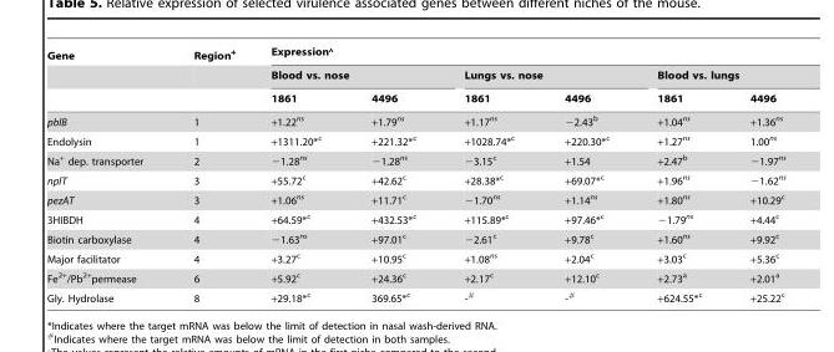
<table><thead><tr><td rowspan="3">Gene</td><td rowspan="3">Region+</td><td colspan="6">Expression‘</td></tr><tr><td colspan="2">Blood vs. nose</td><td colspan="2">Lungs vs. nose</td><td colspan="2">Blood vs. lungs</td></tr><tr><td>1861</td><td>4496</td><td>1861</td><td>4496</td><td>1861</td><td>4496</td></tr></thead><tbody><tr><td>pblB</td><td>1</td><td>+1.22<sup>ns</sup></td><td>+1.79<sup>ns</sup></td><td>+1.17<sup>ns</sup></td><td>−2.43<sup>b</sup></td><td>+1.04<sup>ns</sup></td><td>+1.36<sup>ns</sup></td></tr><tr><td>Endolysin</td><td>1</td><td>+1311.20*c</td><td>+221.32*c</td><td>+1028.74*c</td><td>+220.30*c</td><td>+1.27<sup>ns</sup></td><td>1.00<sup>ns</sup></td></tr><tr><td>Na+ dep. transporter</td><td>2</td><td>−1.28<sup>ns</sup></td><td>−1.28<sup>ns</sup></td><td>−3.15<sup>c</sup></td><td>+1.54</td><td>+2.47<sup>b</sup></td><td>−1.97<sup>ns</sup></td></tr><tr><td>nplT</td><td>3</td><td>+55.72<sup>c</sup></td><td>+42.62<sup>c</sup></td><td>+28.38*c</td><td>+69.07*c</td><td>+1.96<sup>ns</sup></td><td>−1.62<sup>ns</sup></td></tr><tr><td>pezAT</td><td>3</td><td>+1.06<sup>ns</sup></td><td>+11.71<sup>c</sup></td><td>−1.70<sup>ns</sup></td><td>+1.14<sup>ns</sup></td><td>+1.80<sup>ns</sup></td><td>+10.29<sup>c</sup></td></tr><tr><td>3HIBDH</td><td>4</td><td>+64.59*c</td><td>+432.53*c</td><td>+115.89*c</td><td>+97.46*c</td><td>−1.79<sup>ns</sup></td><td>+4.44<sup>c</sup></td></tr><tr><td>Biotin carboxylase</td><td>4</td><td>−1.63<sup>ns</sup></td><td>+97.01<sup>c</sup></td><td>−2.61<sup>c</sup></td><td>+9.78<sup>c</sup></td><td>+1.60<sup>ns</sup></td><td>+9.92<sup>c</sup></td></tr><tr><td>Major facilitator</td><td>4</td><td>+3.27<sup>c</sup></td><td>+10.95<sup>c</sup></td><td>+1.08<sup>ns</sup></td><td>+2.04<sup>c</sup></td><td>+3.03<sup>c</sup></td><td>+5.36<sup>c</sup></td></tr><tr><td>Fe<sup>2+</sup>/Pb<sup>2+</sup>permease</td><td>6</td><td>+5.92<sup>c</sup></td><td>+24.36<sup>c</sup></td><td>+2.17<sup>c</sup></td><td>+12.10<sup>c</sup></td><td>+2.73<sup>a</sup></td><td>+2.01<sup>a</sup></td></tr><tr><td>Gly. Hydrolase</td><td>8</td><td>+29.18*c</td><td>369.65*c</td><td>-#</td><td>-#</td><td>+624.55*c</td><td>+25.22<sup>c</sup></td></tr></tbody></table>